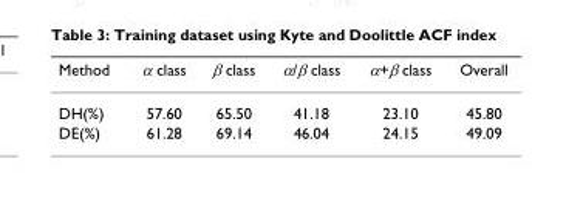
<table><thead><tr><td>Method</td><td>α class</td><td>β class</td><td>α/β class</td><td>α+β class</td><td>Overall</td></tr></thead><tbody><tr><td>DH(%)</td><td>57.60</td><td>65.50</td><td>41.18</td><td>23.10</td><td>45.80</td></tr><tr><td>DE(%)</td><td>61.28</td><td>69.14</td><td>46.04</td><td>24.15</td><td>49.09</td></tr></tbody></table>